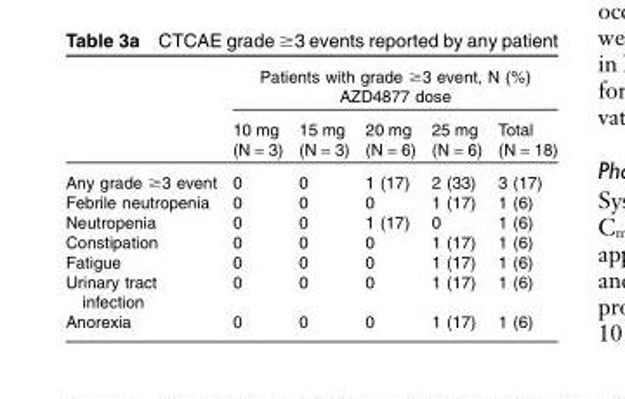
<table><thead><tr><td rowspan="3"></td><td rowspan="2" colspan="5">Patients with grade ≥3 event, N (%) AZD4877 dose</td></tr><tr></tr><tr><td>10 mg (N = 3)</td><td>15 mg (N = 3)</td><td>20 mg (N = 6)</td><td>25 mg (N = 6)</td><td>Total (N = 18)</td></tr></thead><tbody><tr><td>Any grade ≥3 event</td><td>0</td><td>0</td><td>1 (17)</td><td>2 (33)</td><td>3 (17)</td></tr><tr><td>Febrile neutropenia</td><td>0</td><td>0</td><td>0</td><td>1 (17)</td><td>1 (6)</td></tr><tr><td>Neutropenia</td><td>0</td><td>0</td><td>1 (17)</td><td>0</td><td>1 (6)</td></tr><tr><td>Constipation</td><td>0</td><td>0</td><td>0</td><td>1 (17)</td><td>1 (6)</td></tr><tr><td>Fatigue</td><td>0</td><td>0</td><td>0</td><td>1 (17)</td><td>1 (6)</td></tr><tr><td>Urinary tract infection</td><td>0</td><td>0</td><td>0</td><td>1 (17)</td><td>1 (6)</td></tr><tr><td>Anorexia</td><td>0</td><td>0</td><td>0</td><td>1 (17)</td><td>1 (6)</td></tr></tbody></table>